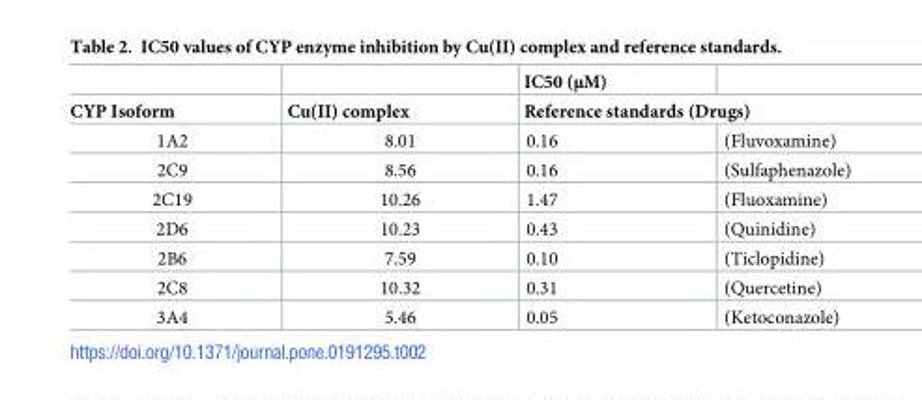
<table><thead><tr><td rowspan="2">CYP Isoform</td><td rowspan="2">Cu(II) complex</td><td>IC50 (μM)</td><td></td></tr><tr><td colspan="2">Reference standards (Drugs)</td></tr></thead><tbody><tr><td>1A2</td><td>8.01</td><td>0.16</td><td>(Fluvoxamine)</td></tr><tr><td>2C9</td><td>8.56</td><td>0.16</td><td>(Sulfaphenazole)</td></tr><tr><td>2C19</td><td>10.26</td><td>1.47</td><td>(Fluoxamine)</td></tr><tr><td>2D6</td><td>10.23</td><td>0.43</td><td>(Quinidine)</td></tr><tr><td>2B6</td><td>7.59</td><td>0.10</td><td>(Ticlopidine)</td></tr><tr><td>2C8</td><td>10.32</td><td>0.31</td><td>(Quercetine)</td></tr><tr><td>3A4</td><td>5.46</td><td>0.05</td><td>(Ketoconazole)</td></tr></tbody></table>